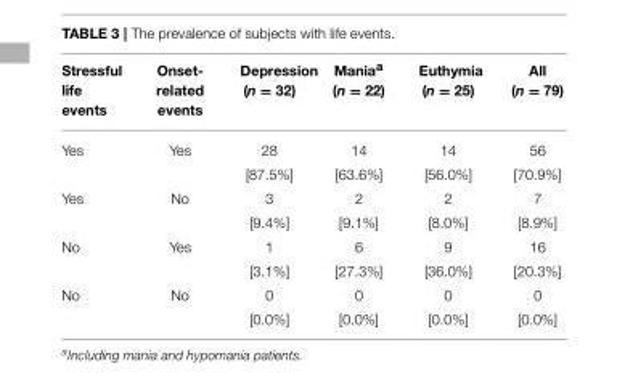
<table><thead><tr><td>Stressful life events</td><td>Onset- related events</td><td>Depression (n = 32)</td><td>Mania<sup>a</sup> (n = 22)</td><td>Euthymia (n = 25)</td><td>All (n = 79)</td></tr></thead><tbody><tr><td rowspan="2">Yes</td><td>Yes</td><td>28</td><td>14</td><td>14</td><td>56</td></tr><tr><td></td><td>[87.5%]</td><td>[63.6%]</td><td>[56.0%]</td><td>[70.9%]</td></tr><tr><td rowspan="2">Yes</td><td>No</td><td>3</td><td>2</td><td>2</td><td>7</td></tr><tr><td></td><td>[9.4%]</td><td>[9.1%]</td><td>[8.0%]</td><td>[8.9%]</td></tr><tr><td rowspan="2">No</td><td>Yes</td><td>1</td><td>6</td><td>9</td><td>16</td></tr><tr><td></td><td>[3.1%]</td><td>[27.3%]</td><td>[36.0%]</td><td>[20.3%]</td></tr><tr><td rowspan="2">No</td><td>No</td><td>0</td><td>0</td><td>0</td><td>0</td></tr><tr><td></td><td>[0.0%]</td><td>[0.0%]</td><td>[0.0%]</td><td>[0.0%]</td></tr></tbody></table>